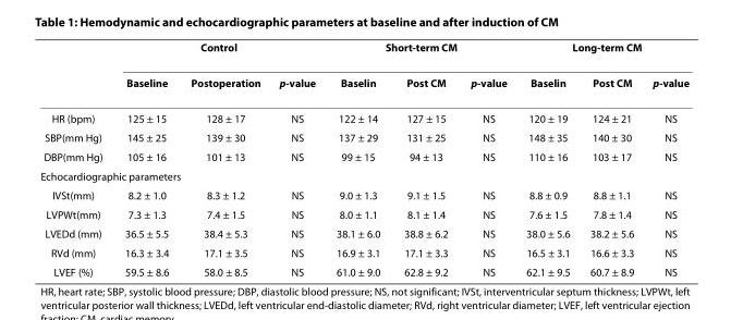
<table><thead><tr><td rowspan="2"></td><td colspan="3">Control</td><td colspan="3">Short-term CM</td><td colspan="3">Long-term CM</td></tr><tr><td>Baseline</td><td>Postoperation</td><td>p-value</td><td>Baselin</td><td>Post CM</td><td>p-value</td><td>Baselin</td><td>Post CM</td><td>p-value</td></tr></thead><tbody><tr><td>HR (bpm)</td><td>125 ± 15</td><td>128 ± 17</td><td>NS</td><td>122 ± 14</td><td>127 ± 15</td><td>NS</td><td>120 ± 19</td><td>124 ± 21</td><td>NS</td></tr><tr><td>SBP(mm Hg)</td><td>145 ± 25</td><td>139 ± 30</td><td>NS</td><td>137 ± 29</td><td>131 ± 25</td><td>NS</td><td>148 ± 35</td><td>140 ± 30</td><td>NS</td></tr><tr><td>DBP(mm Hg)</td><td>105 ± 16</td><td>101 ± 13</td><td>NS</td><td>99 ± 15</td><td>94 ± 13</td><td>NS</td><td>110 ± 16</td><td>103 ± 17</td><td>NS</td></tr><tr><td colspan="10">Echocardiographic parameters</td></tr><tr><td>IVSt(mm)</td><td>8.2 ± 1.0</td><td>8.3 ± 1.2</td><td>NS</td><td>9.0 ± 1.3</td><td>9.1 ± 1.5</td><td>NS</td><td>8.8 ± 0.9</td><td>8.8 ± 1.1</td><td>NS</td></tr><tr><td>LVPWt(mm)</td><td>7.3 ± 1.3</td><td>7.4 ± 1.5</td><td>NS</td><td>8.0 ± 1.1</td><td>8.1 ± 1.4</td><td>NS</td><td>7.6 ± 1.5</td><td>7.8 ± 1.4</td><td>NS</td></tr><tr><td>LVEDd (mm)</td><td>36.5 ± 5.5</td><td>38.4 ± 5.3</td><td>NS</td><td>38.1 ± 6.0</td><td>38.8 ± 6.2</td><td>NS</td><td>38.0 ± 5.6</td><td>38.2 ± 5.6</td><td>NS</td></tr><tr><td>RVd (mm)</td><td>16.3 ± 3.4</td><td>17.1 ± 3.5</td><td>NS</td><td>16.9 ± 3.1</td><td>17.1 ± 3.3</td><td>NS</td><td>16.5 ± 3.1</td><td>16.6 ± 3.3</td><td>NS</td></tr><tr><td>LVEF (%)</td><td>59.5 ± 8.6</td><td>58.0 ± 8.5</td><td>NS</td><td>61.0 ± 9.0</td><td>62.8 ± 9.2</td><td>NS</td><td>62.1 ± 9.5</td><td>60.7 ± 8.9</td><td>NS</td></tr></tbody></table>